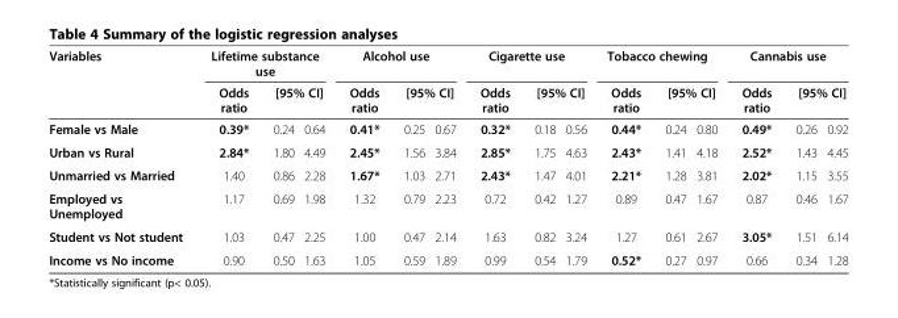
<table><thead><tr><td rowspan="3">Variables Female vs Male</td><td colspan="3">Lifetime substance use</td><td colspan="3">Alcohol use</td><td colspan="3">Cigarette use</td><td colspan="3">Tobacco chewing</td><td colspan="3">Cannabis use</td></tr><tr><td rowspan="2">Odds ratio 0.39*</td><td colspan="2">[95% CI]</td><td rowspan="2">Odds ratio 0.41*</td><td colspan="2">[95% CI]</td><td rowspan="2">Odds ratio 0.32*</td><td colspan="2">[95% CI]</td><td rowspan="2">Odds ratio 0.44*</td><td colspan="2">[95% CI]</td><td rowspan="2">Odds ratio 0.49*</td><td colspan="2">[95% CI]</td></tr><tr><td>0.24</td><td>0.64</td><td>0.25</td><td>0.67</td><td>0.18</td><td>0.56</td><td>0.24</td><td>0.80</td><td>0.26</td><td>0.92</td></tr></thead><tbody><tr><td>Urban vs Rural</td><td>2.84*</td><td>1.80</td><td>4.49</td><td>2.45*</td><td>1.56</td><td>3.84</td><td>2.85*</td><td>1.75</td><td>4.63</td><td>2.43*</td><td>1.41</td><td>4.18</td><td>2.52*</td><td>1.43</td><td>4.45</td></tr><tr><td>Unmarried vs Married</td><td>1.40</td><td>0.86</td><td>2.28</td><td>1.67*</td><td>1.03</td><td>2.71</td><td>2.43*</td><td>1.47</td><td>4.01</td><td>2.21*</td><td>1.28</td><td>3.81</td><td>2.02*</td><td>1.15</td><td>3.55</td></tr><tr><td>Employed vs Unemployed</td><td>1.17</td><td>0.69</td><td>1.98</td><td>1.32</td><td>0.79</td><td>2.23</td><td>0.72</td><td>0.42</td><td>1.27</td><td>0.89</td><td>0.47</td><td>1.67</td><td>0.87</td><td>0.46</td><td>1.67</td></tr><tr><td>Student vs Not student</td><td>1.03</td><td>0.47</td><td>2.25</td><td>1.00</td><td>0.47</td><td>2.14</td><td>1.63</td><td>0.82</td><td>3.24</td><td>1.27</td><td>0.61</td><td>2.67</td><td>3.05*</td><td>1.51</td><td>6.14</td></tr><tr><td>Income vs No income</td><td>0.90</td><td>0.50</td><td>1.63</td><td>1.05</td><td>0.59</td><td>1.89</td><td>0.99</td><td>0.54</td><td>1.79</td><td>0.52*</td><td>0.27</td><td>0.97</td><td>0.66</td><td>0.34</td><td>1.28</td></tr></tbody></table>